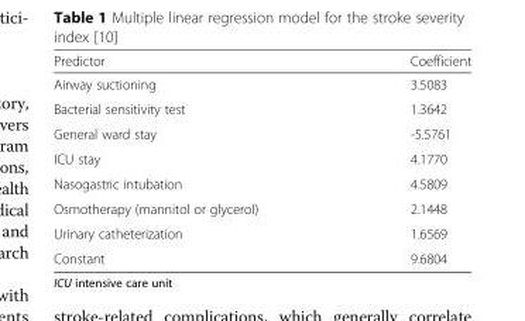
<table><thead><tr><td>Predictor</td><td>Coefficient</td></tr></thead><tbody><tr><td>Airway suctioning</td><td>3.5083</td></tr><tr><td>Bacterial sensitivity test</td><td>1.3642</td></tr><tr><td>General ward stay</td><td>-5.5761</td></tr><tr><td>ICU stay</td><td>4.1770</td></tr><tr><td>Nasogastric intubation</td><td>4.5809</td></tr><tr><td>Osmotherapy (mannitol or glycerol)</td><td>2.1448</td></tr><tr><td>Urinary catheterization</td><td>1.6569</td></tr><tr><td>Constant</td><td>9.6804</td></tr></tbody></table>